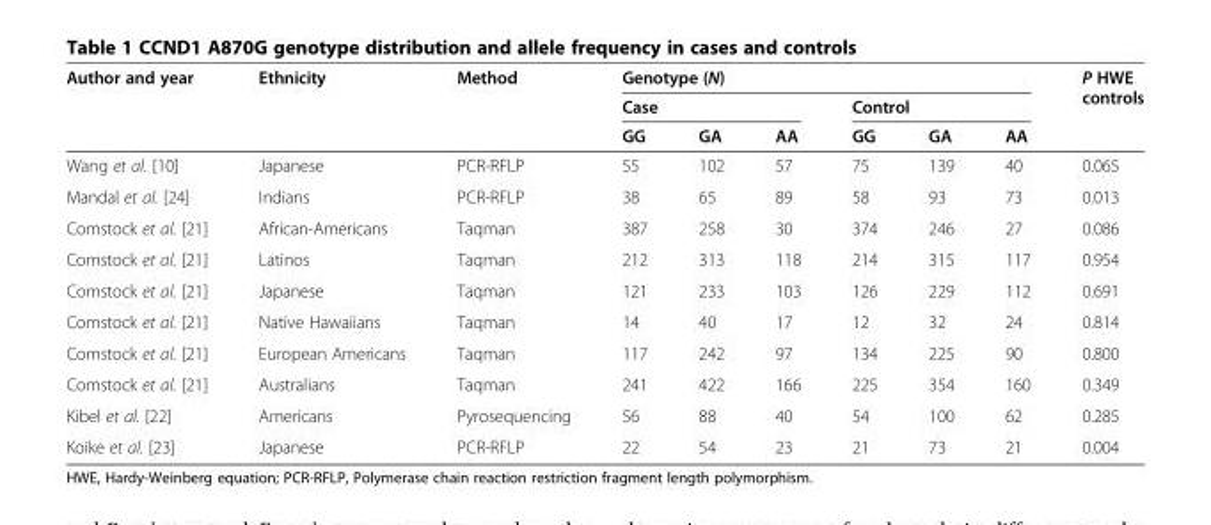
<table><thead><tr><td rowspan="3">Author and year</td><td rowspan="3">Ethnicity</td><td rowspan="3">Method</td><td colspan="6">Genotype (N)</td><td rowspan="3">P HWE controls</td></tr><tr><td colspan="3">Case</td><td colspan="3">Control</td></tr><tr><td>GG</td><td>GA</td><td>AA</td><td>GG</td><td>GA</td><td>AA</td></tr></thead><tbody><tr><td>Wang et al. [10]</td><td>Japanese</td><td>PCR-RFLP</td><td>55</td><td>102</td><td>57</td><td>75</td><td>139</td><td>40</td><td>0.065</td></tr><tr><td>Mandal et al. [24]</td><td>Indians</td><td>PCR-RFLP</td><td>38</td><td>65</td><td>89</td><td>58</td><td>93</td><td>73</td><td>0.013</td></tr><tr><td>Comstock et al. [21]</td><td>African-Americans</td><td>Taqman</td><td>387</td><td>258</td><td>30</td><td>374</td><td>246</td><td>27</td><td>0.086</td></tr><tr><td>Comstock et al. [21]</td><td>Latinos</td><td>Taqman</td><td>212</td><td>313</td><td>118</td><td>214</td><td>315</td><td>117</td><td>0.954</td></tr><tr><td>Comstock et al. [21]</td><td>Japanese</td><td>Taqman</td><td>121</td><td>233</td><td>103</td><td>126</td><td>229</td><td>112</td><td>0.691</td></tr><tr><td>Comstock et al. [21]</td><td>Native Hawaiians</td><td>Taqman</td><td>14</td><td>40</td><td>17</td><td>12</td><td>32</td><td>24</td><td>0.814</td></tr><tr><td>Comstock et al. [21]</td><td>European Americans</td><td>Taqman</td><td>117</td><td>242</td><td>97</td><td>134</td><td>225</td><td>90</td><td>0.800</td></tr><tr><td>Comstock et al. [21]</td><td>Australians</td><td>Taqman</td><td>241</td><td>422</td><td>166</td><td>225</td><td>354</td><td>160</td><td>0.349</td></tr><tr><td>Kibel et al. [22]</td><td>Americans</td><td>Pyrosequencing</td><td>56</td><td>88</td><td>40</td><td>54</td><td>100</td><td>62</td><td>0.285</td></tr><tr><td>Koike et al. [23]</td><td>Japanese</td><td>PCR-RFLP</td><td>22</td><td>54</td><td>23</td><td>21</td><td>73</td><td>21</td><td>0.004</td></tr></tbody></table>